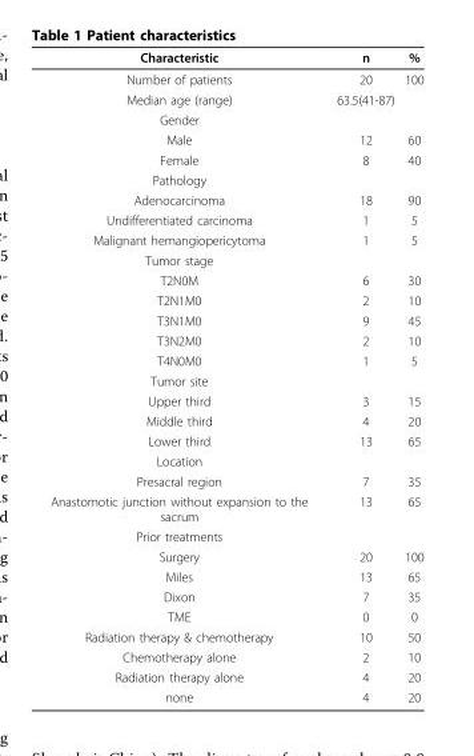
<table><thead><tr><td>Characteristic</td><td>n</td><td>%</td></tr></thead><tbody><tr><td>Number of patients</td><td>20</td><td>100</td></tr><tr><td>Median age (range)</td><td>63.5(41-87)</td><td></td></tr><tr><td colspan="3">Gender</td></tr><tr><td>Male</td><td>12</td><td>60</td></tr><tr><td>Female</td><td>8</td><td>40</td></tr><tr><td colspan="3">Pathology</td></tr><tr><td>Adenocarcinoma</td><td>18</td><td>90</td></tr><tr><td>Undifferentiated carcinoma</td><td>1</td><td>5</td></tr><tr><td>Malignant hemangiopericytoma</td><td>1</td><td>5</td></tr><tr><td colspan="3">Tumor stage</td></tr><tr><td>T2N0M</td><td>6</td><td>30</td></tr><tr><td>T2N1M0</td><td>2</td><td>10</td></tr><tr><td>T3N1M0</td><td>9</td><td>45</td></tr><tr><td>T3N2M0</td><td>2</td><td>10</td></tr><tr><td>T4N0M0</td><td>1</td><td>5</td></tr><tr><td colspan="3">Tumor site</td></tr><tr><td>Upper third</td><td>3</td><td>15</td></tr><tr><td>Middle third</td><td>4</td><td>20</td></tr><tr><td>Lower third</td><td>13</td><td>65</td></tr><tr><td colspan="3">Location</td></tr><tr><td>Presacral region</td><td>7</td><td>35</td></tr><tr><td>Anastomotic junction without expansion to the sacrum</td><td>13</td><td>65</td></tr><tr><td colspan="3">Prior treatments</td></tr><tr><td>Surgery</td><td>20</td><td>100</td></tr><tr><td>Miles</td><td>13</td><td>65</td></tr><tr><td>Dixon</td><td>7</td><td>35</td></tr><tr><td>TME</td><td>0</td><td>0</td></tr><tr><td>Radiation therapy &amp; chemotherapy</td><td>10</td><td>50</td></tr><tr><td>Chemotherapy alone</td><td>2</td><td>10</td></tr><tr><td>Radiation therapy alone</td><td>4</td><td>20</td></tr><tr><td>none</td><td>4</td><td>20</td></tr></tbody></table>